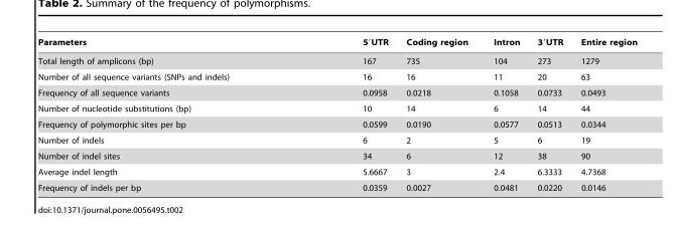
<table><thead><tr><td>Parameters</td><td>5′UTR</td><td>Coding region</td><td>Intron</td><td>3′UTR</td><td>Entire region</td></tr></thead><tbody><tr><td>Total length of amplicons (bp)</td><td>167</td><td>735</td><td>104</td><td>273</td><td>1279</td></tr><tr><td>Number of all sequence variants (SNPs and indels)</td><td>16</td><td>16</td><td>11</td><td>20</td><td>63</td></tr><tr><td>Frequency of all sequence variants</td><td>0.0958</td><td>0.0218</td><td>0.1058</td><td>0.0733</td><td>0.0493</td></tr><tr><td>Number of nucleotide substitutions (bp)</td><td>10</td><td>14</td><td>6</td><td>14</td><td>44</td></tr><tr><td>Frequency of polymorphic sites per bp</td><td>0.0599</td><td>0.0190</td><td>0.0577</td><td>0.0513</td><td>0.0344</td></tr><tr><td>Number of indels</td><td>6</td><td>2</td><td>5</td><td>6</td><td>19</td></tr><tr><td>Number of indel sites</td><td>34</td><td>6</td><td>12</td><td>38</td><td>90</td></tr><tr><td>Average indel length</td><td>5.6667</td><td>3</td><td>2.4</td><td>6.3333</td><td>4.7368</td></tr><tr><td>Frequency of indels per bp</td><td>0.0359</td><td>0.0027</td><td>0.0481</td><td>0.0220</td><td>0.0146</td></tr></tbody></table>